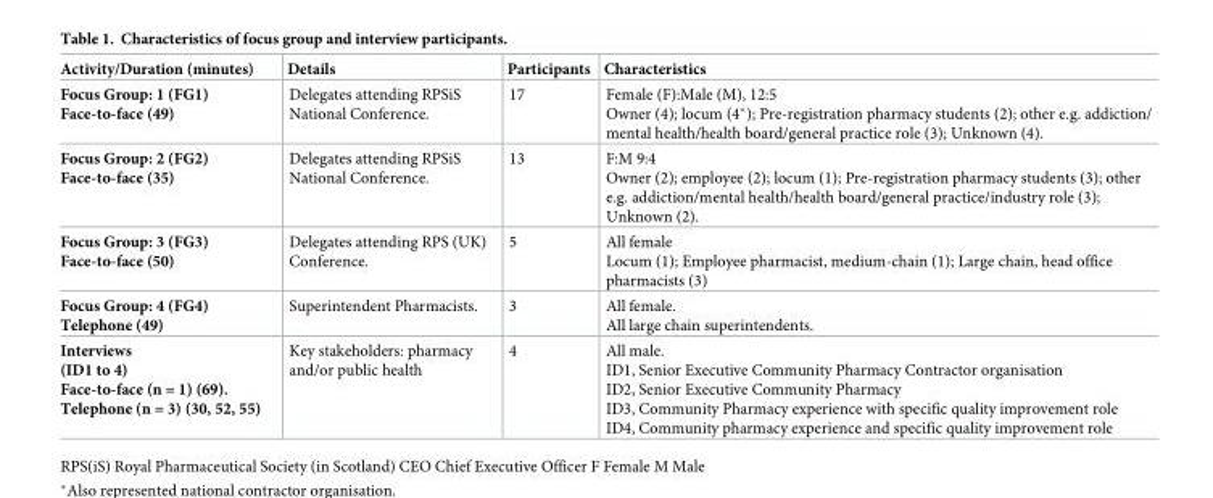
<table><thead><tr><td>Activity/Duration (minutes)</td><td>Details</td><td>Participants</td><td>Characteristics</td></tr></thead><tbody><tr><td>Focus Group: 1 (FG1) Face-to-face (49)</td><td>Delegates attending RPSiS National Conference.</td><td>17</td><td>Female (F):Male (M), 12:5 Owner (4); locum (4*); Pre-registration pharmacy students (2); other e.g. addiction/ mental health/health board/general practice role (3); Unknown (4).</td></tr><tr><td>Focus Group: 2 (FG2) Face-to-face (35)</td><td>Delegates attending RPSiS National Conference.</td><td>13</td><td>F:M 9:4 Owner (2); employee (2); locum (1); Pre-registration pharmacy students (3); other e.g. addiction/mental health/health board/general practice/industry role (3); Unknown (2).</td></tr><tr><td>Focus Group: 3 (FG3) Face-to-face (50)</td><td>Delegates attending RPS (UK) Conference.</td><td>5</td><td>All female Locum (1); Employee pharmacist, medium-chain (1); Large chain, head office pharmacists (3)</td></tr><tr><td>Focus Group: 4 (FG4) Telephone (49)</td><td>Superintendent Pharmacists.</td><td>3</td><td>All female. All large chain superintendents.</td></tr><tr><td>Interviews (ID1 to 4) Face-to-face (n = 1) (69). Telephone (n = 3) (30, 52, 55)</td><td>Key stakeholders: pharmacy and/or public health</td><td>4</td><td>All male. ID1, Senior Executive Community Pharmacy Contractor organisation ID2, Senior Executive Community Pharmacy ID3, Community Pharmacy experience with specific quality improvement role ID4, Community pharmacy experience and specific quality improvement role</td></tr></tbody></table>